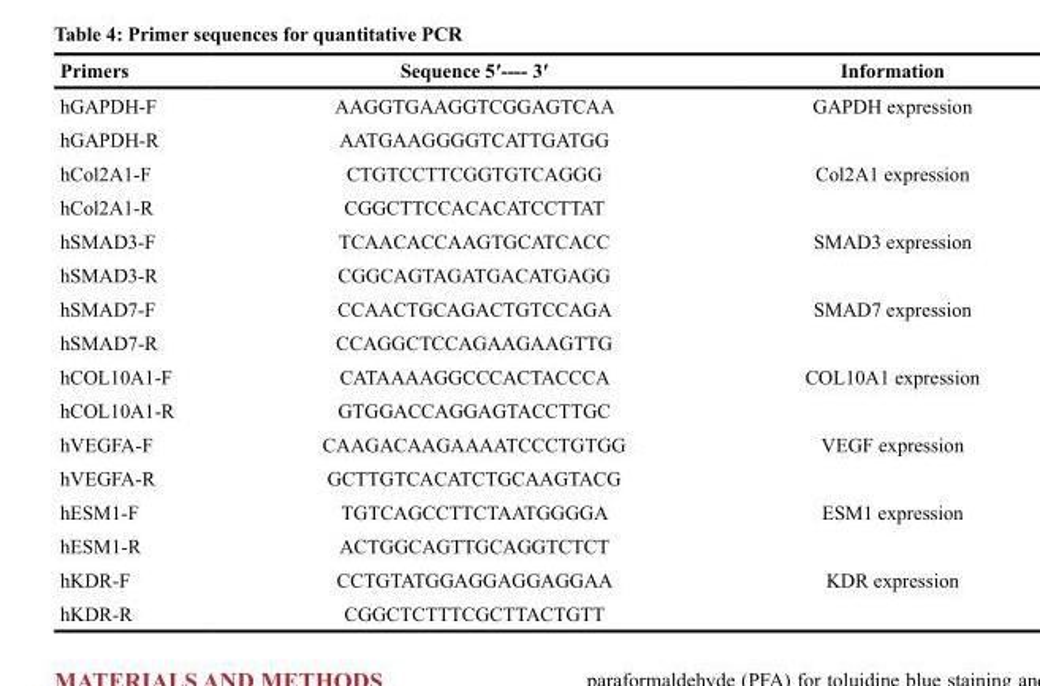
<table><thead><tr><td>Primers</td><td>Sequence 5′---- 3′</td><td>Information</td></tr></thead><tbody><tr><td>hGAPDH-F</td><td>AAGGTGAAGGTCGGAGTCAA</td><td>GAPDH expression</td></tr><tr><td>hGAPDH-R</td><td>AATGAAGGGGTCATTGATGG</td><td></td></tr><tr><td>hCol2A1-F</td><td>CTGTCCTTCGGTGTCAGGG</td><td>Col2A1 expression</td></tr><tr><td>hCol2A1-R</td><td>CGGCTTCCACACATCCTTAT</td><td></td></tr><tr><td>hSMAD3-F</td><td>TCAACACCAAGTGCATCACC</td><td>SMAD3 expression</td></tr><tr><td>hSMAD3-R</td><td>CGGCAGTAGATGACATGAGG</td><td></td></tr><tr><td>hSMAD7-F</td><td>CCAACTGCAGACTGTCCAGA</td><td>SMAD7 expression</td></tr><tr><td>hSMAD7-R</td><td>CCAGGCTCCAGAAGAAGTTG</td><td></td></tr><tr><td>hCOL10A1-F</td><td>CATAAAAGGCCCACTACCCA</td><td>COL10A1 expression</td></tr><tr><td>hCOL10A1-R</td><td>GTGGACCAGGAGTACCTTGC</td><td></td></tr><tr><td>hVEGFA-F</td><td>CAAGACAAGAAAATCCCTGTGG</td><td>VEGF expression</td></tr><tr><td>hVEGFA-R</td><td>GCTTGTCACATCTGCAAGTACG</td><td></td></tr><tr><td>hESM1-F</td><td>TGTCAGCCTTCTAATGGGGA</td><td>ESM1 expression</td></tr><tr><td>hESM1-R</td><td>ACTGGCAGTTGCAGGTCTCT</td><td></td></tr><tr><td>hKDR-F</td><td>CCTGTATGGAGGAGGAGGAA</td><td>KDR expression</td></tr><tr><td>hKDR-R</td><td>CGGCTCTTTCGCTTACTGTT</td><td></td></tr></tbody></table>